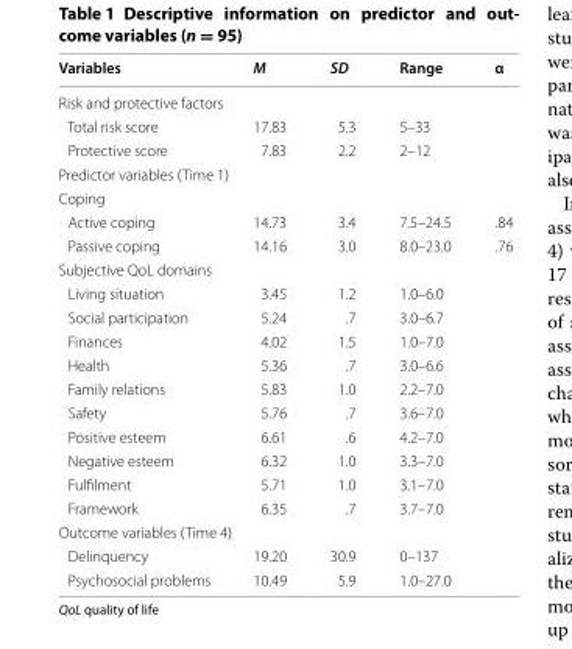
<table><thead><tr><td>Variables</td><td>M</td><td>SD</td><td>Range</td><td>α</td></tr></thead><tbody><tr><td colspan="5">Risk and protective factors</td></tr><tr><td>Total risk score</td><td>17.83</td><td>5.3</td><td>5–33</td><td></td></tr><tr><td>Protective score</td><td>7.83</td><td>2.2</td><td>2–12</td><td></td></tr><tr><td colspan="5">Predictor variables (Time 1)</td></tr><tr><td colspan="5">Coping</td></tr><tr><td>Active coping</td><td>14.73</td><td>3.4</td><td>7.5–24.5</td><td>.84</td></tr><tr><td>Passive coping</td><td>14.16</td><td>3.0</td><td>8.0–23.0</td><td>.76</td></tr><tr><td colspan="5">Subjective QoL domains</td></tr><tr><td>Living situation</td><td>3.45</td><td>1.2</td><td>1.0–6.0</td><td></td></tr><tr><td>Social participation</td><td>5.24</td><td>.7</td><td>3.0–6.7</td><td></td></tr><tr><td>Finances</td><td>4.02</td><td>1.5</td><td>1.0–7.0</td><td></td></tr><tr><td>Health</td><td>5.36</td><td>.7</td><td>3.0–6.6</td><td></td></tr><tr><td>Family relations</td><td>5.83</td><td>1.0</td><td>2.2–7.0</td><td></td></tr><tr><td>Safety</td><td>5.76</td><td>.7</td><td>3.6–7.0</td><td></td></tr><tr><td>Positive esteem</td><td>6.61</td><td>.6</td><td>4.2–7.0</td><td></td></tr><tr><td>Negative esteem</td><td>6.32</td><td>1.0</td><td>3.3–7.0</td><td></td></tr><tr><td>Fulfilment</td><td>5.71</td><td>1.0</td><td>3.1–7.0</td><td></td></tr><tr><td>Framework</td><td>6.35</td><td>.7</td><td>3.7–7.0</td><td></td></tr><tr><td colspan="5">Outcome variables (Time 4)</td></tr><tr><td>Delinquency</td><td>19.20</td><td>30.9</td><td>0–137</td><td></td></tr><tr><td>Psychosocial problems</td><td>10.49</td><td>5.9</td><td>1.0–27.0</td><td></td></tr></tbody></table>